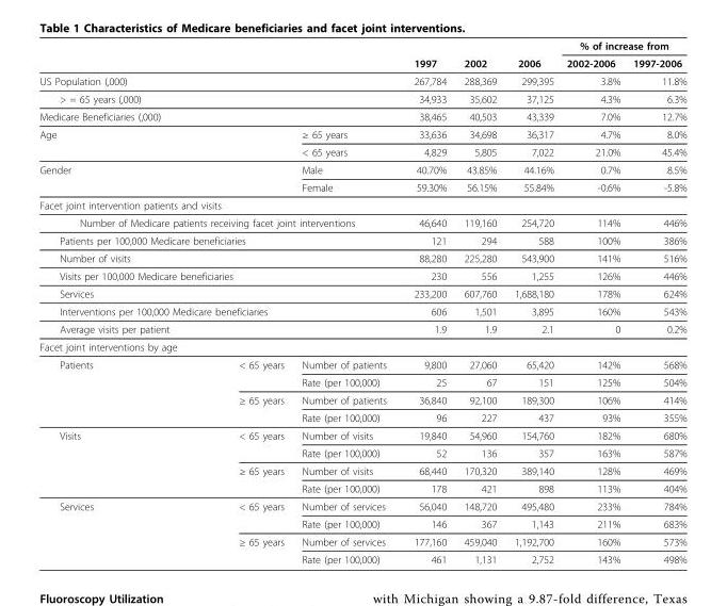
<table><thead><tr><td rowspan="2"></td><td rowspan="2"></td><td rowspan="2"></td><td rowspan="2">1997</td><td rowspan="2">2002</td><td rowspan="2">2006</td><td colspan="2">% of increase from</td></tr><tr><td>2002-2006</td><td>1997-2006</td></tr></thead><tbody><tr><td colspan="3">US Population (,000)</td><td>267,784</td><td>288,369</td><td>299,395</td><td>3.8%</td><td>11.8%</td></tr><tr><td colspan="3">&gt; = 65 years (,000)</td><td>34,933</td><td>35,602</td><td>37,125</td><td>4.3%</td><td>6.3%</td></tr><tr><td colspan="3">Medicare Beneficiaries (,000)</td><td>38,465</td><td>40,503</td><td>43,339</td><td>7.0%</td><td>12.7%</td></tr><tr><td colspan="2">Age</td><td>≥ 65 years</td><td>33,636</td><td>34,698</td><td>36,317</td><td>4.7%</td><td>8.0%</td></tr><tr><td></td><td></td><td>&lt; 65 years</td><td>4,829</td><td>5,805</td><td>7,022</td><td>21.0%</td><td>45.4%</td></tr><tr><td colspan="2">Gender</td><td>Male</td><td>40.70%</td><td>43.85%</td><td>44.16%</td><td>0.7%</td><td>8.5%</td></tr><tr><td></td><td></td><td>Female</td><td>59.30%</td><td>56.15%</td><td>55.84%</td><td>-0.6%</td><td>-5.8%</td></tr><tr><td colspan="8">Facet joint intervention patients and visits</td></tr><tr><td colspan="3">Number of Medicare patients receiving facet joint interventions</td><td>46,640</td><td>119,160</td><td>254,720</td><td>114%</td><td>446%</td></tr><tr><td colspan="3">Patients per 100,000 Medicare beneficiaries</td><td>121</td><td>294</td><td>588</td><td>100%</td><td>386%</td></tr><tr><td colspan="3">Number of visits</td><td>88,280</td><td>225,280</td><td>543,900</td><td>141%</td><td>516%</td></tr><tr><td colspan="3">Visits per 100,000 Medicare beneficiaries</td><td>230</td><td>556</td><td>1,255</td><td>126%</td><td>446%</td></tr><tr><td colspan="3">Services</td><td>233,200</td><td>607,760</td><td>1,688,180</td><td>178%</td><td>624%</td></tr><tr><td colspan="3">Interventions per 100,000 Medicare beneficiaries</td><td>606</td><td>1,501</td><td>3,895</td><td>160%</td><td>543%</td></tr><tr><td colspan="3">Average visits per patient</td><td>1.9</td><td>1.9</td><td>2.1</td><td>0</td><td>0.2%</td></tr><tr><td colspan="8">Facet joint interventions by age</td></tr><tr><td rowspan="4">Patients</td><td>&lt; 65 years</td><td>Number of patients</td><td>9,800</td><td>27,060</td><td>65,420</td><td>142%</td><td>568%</td></tr><tr><td></td><td>Rate (per 100,000)</td><td>25</td><td>67</td><td>151</td><td>125%</td><td>504%</td></tr><tr><td>≥ 65 years</td><td>Number of patients</td><td>36,840</td><td>92,100</td><td>189,300</td><td>106%</td><td>414%</td></tr><tr><td></td><td>Rate (per 100,000)</td><td>96</td><td>227</td><td>437</td><td>93%</td><td>355%</td></tr><tr><td rowspan="4">Visits</td><td>&lt; 65 years</td><td>Number of visits</td><td>19,840</td><td>54,960</td><td>154,760</td><td>182%</td><td>680%</td></tr><tr><td></td><td>Rate (per 100,000)</td><td>52</td><td>136</td><td>357</td><td>163%</td><td>587%</td></tr><tr><td>≥ 65 years</td><td>Number of visits</td><td>68,440</td><td>170,320</td><td>389,140</td><td>128%</td><td>469%</td></tr><tr><td></td><td>Rate (per 100,000)</td><td>178</td><td>421</td><td>898</td><td>113%</td><td>404%</td></tr><tr><td rowspan="4">Services</td><td>&lt; 65 years</td><td>Number of services</td><td>56,040</td><td>148,720</td><td>495,480</td><td>233%</td><td>784%</td></tr><tr><td></td><td>Rate (per 100,000)</td><td>146</td><td>367</td><td>1,143</td><td>211%</td><td>683%</td></tr><tr><td>≥ 65 years</td><td>Number of services</td><td>177,160</td><td>459,040</td><td>1,192,700</td><td>160%</td><td>573%</td></tr><tr><td></td><td>Rate (per 100,000)</td><td>461</td><td>1,131</td><td>2,752</td><td>143%</td><td>498%</td></tr></tbody></table>